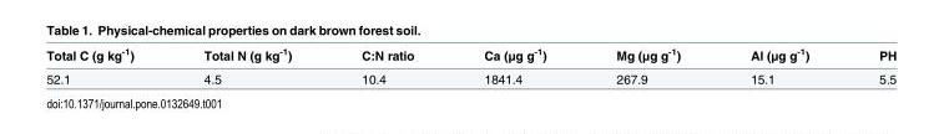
<table><thead><tr><td>Total C (g kg<sup>-1</sup>)</td><td>Total N (g kg<sup>-1</sup>)</td><td>C:N ratio</td><td>Ca (μg g<sup>-1</sup>)</td><td>Mg (μg g<sup>-1</sup>)</td><td>Al (μg g<sup>-1</sup>)</td><td>PH</td></tr></thead><tbody><tr><td>52.1</td><td>4.5</td><td>10.4</td><td>1841.4</td><td>267.9</td><td>15.1</td><td>5.5</td></tr></tbody></table>